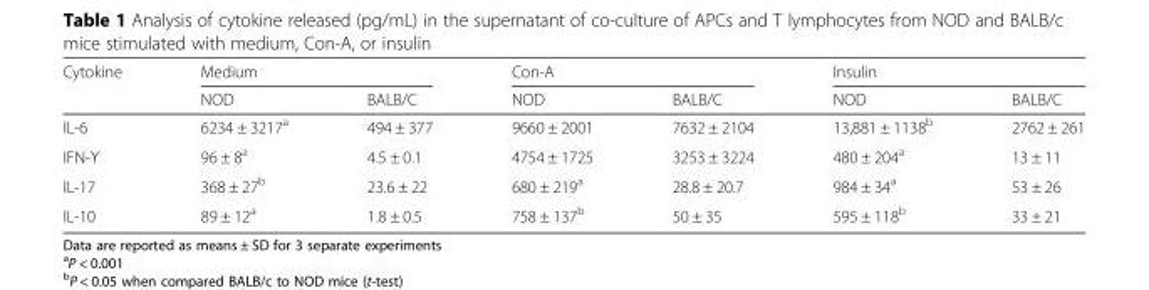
<table><thead><tr><td rowspan="2">Cytokine</td><td colspan="2">Medium</td><td colspan="2">Con-A</td><td colspan="2">Insulin</td></tr><tr><td>NOD</td><td>BALB/C</td><td>NOD</td><td>BALB/C</td><td>NOD</td><td>BALB/C</td></tr></thead><tbody><tr><td>IL-6</td><td>6234 ± 3217<sup>a</sup></td><td>494 ± 377</td><td>9660 ± 2001</td><td>7632 ± 2104</td><td>13,881 ± 1138<sup>b</sup></td><td>2762 ± 261</td></tr><tr><td>IFN-Υ</td><td>96 ± 8<sup>a</sup></td><td>4.5 ± 0.1</td><td>4754 ± 1725</td><td>3253 ± 3224</td><td>480 ± 204<sup>a</sup></td><td>13 ± 11</td></tr><tr><td>IL-17</td><td>368 ± 27<sup>b</sup></td><td>23.6 ± 22</td><td>680 ± 219<sup>a</sup></td><td>28.8 ± 20.7</td><td>984 ± 34<sup>a</sup></td><td>53 ± 26</td></tr><tr><td>IL-10</td><td>89 ± 12<sup>a</sup></td><td>1.8 ± 0.5</td><td>758 ± 137<sup>b</sup></td><td>50 ± 35</td><td>595 ± 118<sup>b</sup></td><td>33 ± 21</td></tr></tbody></table>